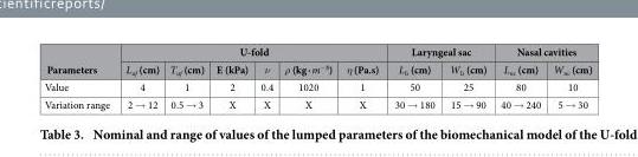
<table><thead><tr><td rowspan="2">Parameters</td><td colspan="6">U-fold</td><td colspan="2">Laryngeal sac</td><td colspan="2">Nasal cavities</td></tr><tr><td>L<sub>uf</sub> (cm)</td><td>T<sub>uf</sub> (cm)</td><td>E (kPa)</td><td>ν</td><td>ρ (kg · m<sup>−3</sup>)</td><td>η (Pa.s)</td><td>L<sub>ls</sub> (cm)</td><td>W<sub>ls</sub> (cm)</td><td>L<sub>nc</sub> (cm)</td><td>W<sub>nc</sub> (cm)</td></tr></thead><tbody><tr><td>Value</td><td>4</td><td>1</td><td>2</td><td>0.4</td><td>1020</td><td>1</td><td>50</td><td>25</td><td>80</td><td>10</td></tr><tr><td>Variation range</td><td>2 → 12</td><td>0.5 → 3</td><td>X</td><td>X</td><td>X</td><td>X</td><td>30 → 180</td><td>15 → 90</td><td>40 → 240</td><td>5 → 30</td></tr></tbody></table>